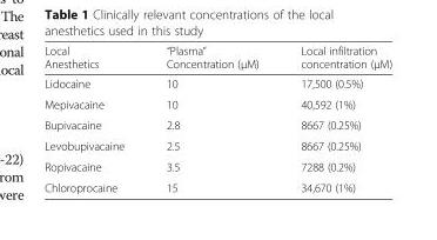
<table><thead><tr><td>Local Anesthetics</td><td>“Plasma” Concentration (μM)</td><td>Local infiltration concentration (μM)</td></tr></thead><tbody><tr><td>Lidocaine</td><td>10</td><td>17,500 (0.5%)</td></tr><tr><td>Mepivacaine</td><td>10</td><td>40,592 (1%)</td></tr><tr><td>Bupivacaine</td><td>2.8</td><td>8667 (0.25%)</td></tr><tr><td>Levobupivacaine</td><td>2.5</td><td>8667 (0.25%)</td></tr><tr><td>Ropivacaine</td><td>3.5</td><td>7288 (0.2%)</td></tr><tr><td>Chloroprocaine</td><td>15</td><td>34,670 (1%)</td></tr></tbody></table>